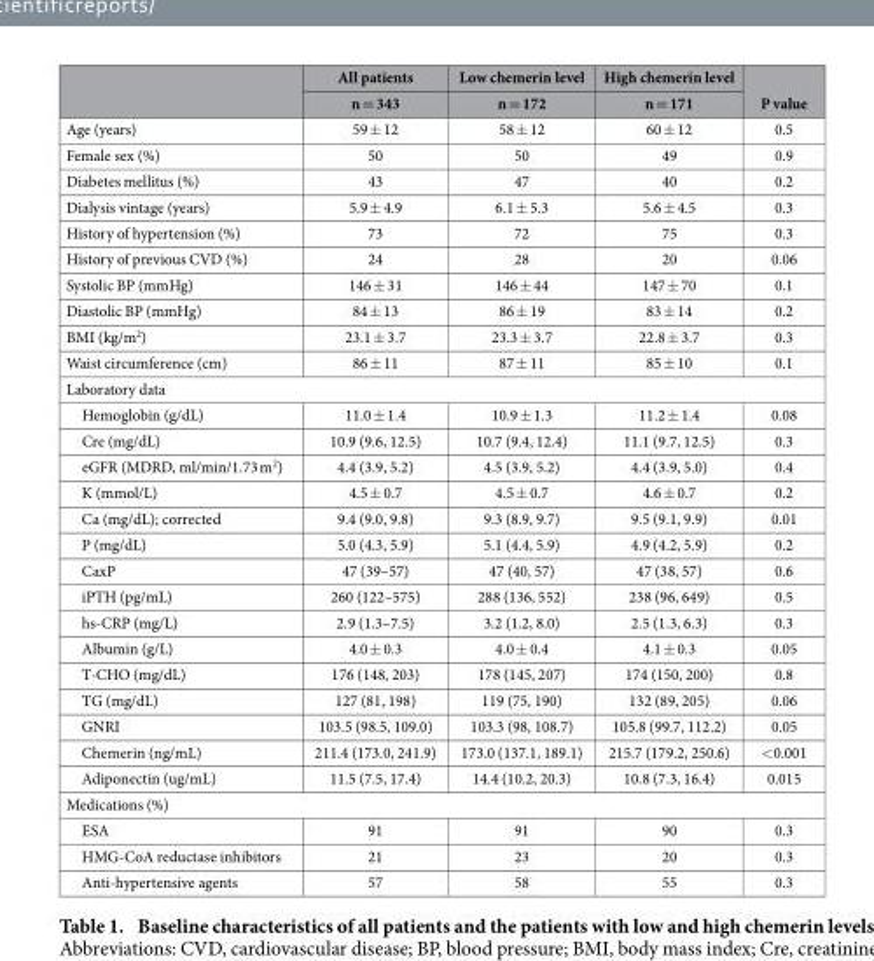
<table><thead><tr><td rowspan="2"></td><td rowspan="2">All patients n = 343</td><td rowspan="2">Low chemerin level n = 172</td><td rowspan="2">High chemerin level n = 171</td><td rowspan="2">P value</td></tr><tr></tr></thead><tbody><tr><td>Age (years)</td><td>59 ± 12</td><td>58 ± 12</td><td>60 ± 12</td><td>0.5</td></tr><tr><td>Female sex (%)</td><td>50</td><td>50</td><td>49</td><td>0.9</td></tr><tr><td>Diabetes mellitus (%)</td><td>43</td><td>47</td><td>40</td><td>0.2</td></tr><tr><td>Dialysis vintage (years)</td><td>5.9 ± 4.9</td><td>6.1 ± 5.3</td><td>5.6 ± 4.5</td><td>0.3</td></tr><tr><td>History of hypertension (%)</td><td>73</td><td>72</td><td>75</td><td>0.3</td></tr><tr><td>History of previous CVD (%)</td><td>24</td><td>28</td><td>20</td><td>0.06</td></tr><tr><td>Systolic BP (mmHg)</td><td>146 ± 31</td><td>146 ± 44</td><td>147 ± 70</td><td>0.1</td></tr><tr><td>Diastolic BP (mmHg)</td><td>84 ± 13</td><td>86 ± 19</td><td>83 ± 14</td><td>0.2</td></tr><tr><td>BMI (kg/m<sup>2</sup>)</td><td>23.1 ± 3.7</td><td>23.3 ± 3.7</td><td>22.8 ± 3.7</td><td>0.3</td></tr><tr><td>Waist circumference (cm)</td><td>86 ± 11</td><td>87 ± 11</td><td>85 ± 10</td><td>0.1</td></tr><tr><td colspan="5">Laboratory data</td></tr><tr><td>Hemoglobin (g/dL)</td><td>11.0 ± 1.4</td><td>10.9 ± 1.3</td><td>11.2 ± 1.4</td><td>0.08</td></tr><tr><td>Cre (mg/dL)</td><td>10.9 (9.6, 12.5)</td><td>10.7 (9.4, 12.4)</td><td>11.1 (9.7, 12.5)</td><td>0.3</td></tr><tr><td>eGFR (MDRD, ml/min/1.73 m<sup>2</sup>)</td><td>4.4 (3.9, 5.2)</td><td>4.5 (3.9, 5.2)</td><td>4.4 (3.9, 5.0)</td><td>0.4</td></tr><tr><td>K (mmol/L)</td><td>4.5 ± 0.7</td><td>4.5 ± 0.7</td><td>4.6 ± 0.7</td><td>0.2</td></tr><tr><td>Ca (mg/dL); corrected</td><td>9.4 (9.0, 9.8)</td><td>9.3 (8.9, 9.7)</td><td>9.5 (9.1, 9.9)</td><td>0.01</td></tr><tr><td>P (mg/dL)</td><td>5.0 (4.3, 5.9)</td><td>5.1 (4.4, 5.9)</td><td>4.9 (4.2, 5.9)</td><td>0.2</td></tr><tr><td>CaxP</td><td>47 (39–57)</td><td>47 (40, 57)</td><td>47 (38, 57)</td><td>0.6</td></tr><tr><td>iPTH (pg/mL)</td><td>260 (122–575)</td><td>288 (136, 552)</td><td>238 (96, 649)</td><td>0.5</td></tr><tr><td>hs-CRP (mg/L)</td><td>2.9 (1.3–7.5)</td><td>3.2 (1.2, 8.0)</td><td>2.5 (1.3, 6.3)</td><td>0.3</td></tr><tr><td>Albumin (g/L)</td><td>4.0 ± 0.3</td><td>4.0 ± 0.4</td><td>4.1 ± 0.3</td><td>0.05</td></tr><tr><td>T-CHO (mg/dL)</td><td>176 (148, 203)</td><td>178 (145, 207)</td><td>174 (150, 200)</td><td>0.8</td></tr><tr><td>TG (mg/dL)</td><td>127 (81, 198)</td><td>119 (75, 190)</td><td>132 (89, 205)</td><td>0.06</td></tr><tr><td>GNRI</td><td>103.5 (98.5, 109.0)</td><td>103.3 (98, 108.7)</td><td>105.8 (99.7, 112.2)</td><td>0.05</td></tr><tr><td>Chemerin (ng/mL)</td><td>211.4 (173.0, 241.9)</td><td>173.0 (137.1, 189.1)</td><td>215.7 (179.2, 250.6)</td><td>&lt; 0.001</td></tr><tr><td>Adiponectin (ug/mL)</td><td>11.5 (7.5, 17.4)</td><td>14.4 (10.2, 20.3)</td><td>10.8 (7.3, 16.4)</td><td>0.015</td></tr><tr><td colspan="5">Medications (%)</td></tr><tr><td>ESA</td><td>91</td><td>91</td><td>90</td><td>0.3</td></tr><tr><td>HMG-CoA reductase inhibitors</td><td>21</td><td>23</td><td>20</td><td>0.3</td></tr><tr><td>Anti-hypertensive agents</td><td>57</td><td>58</td><td>55</td><td>0.3</td></tr></tbody></table>